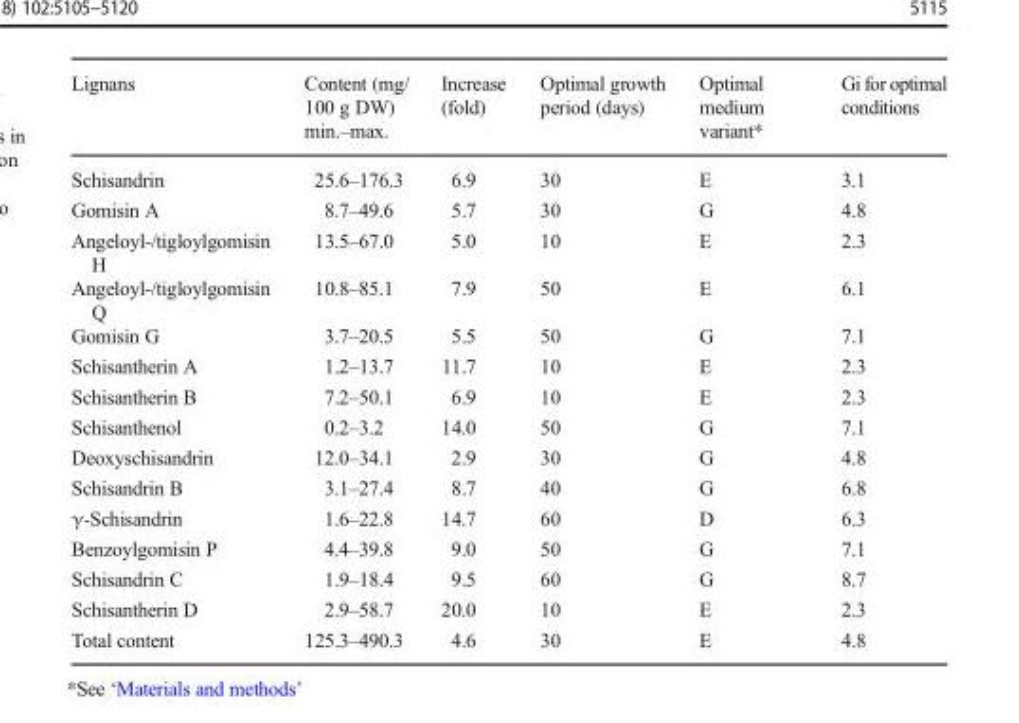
<table><thead><tr><td>Lignans</td><td>Content (mg/ 100 g DW) min.–max.</td><td>Increase (fold)</td><td>Optimal growth period (days)</td><td>Optimal medium variant*</td><td>Gi for optimal conditions</td></tr></thead><tbody><tr><td>Schisandrin</td><td>25.6–176.3</td><td>6.9</td><td>30</td><td>E</td><td>3.1</td></tr><tr><td>Gomisin A</td><td>8.7–49.6</td><td>5.7</td><td>30</td><td>G</td><td>4.8</td></tr><tr><td>Angeloyl-/tigloylgomisin H</td><td>13.5–67.0</td><td>5.0</td><td>10</td><td>E</td><td>2.3</td></tr><tr><td>Angeloyl-/tigloylgomisin Q</td><td>10.8–85.1</td><td>7.9</td><td>50</td><td>E</td><td>6.1</td></tr><tr><td>Gomisin G</td><td>3.7–20.5</td><td>5.5</td><td>50</td><td>G</td><td>7.1</td></tr><tr><td>Schisantherin A</td><td>1.2–13.7</td><td>11.7</td><td>10</td><td>E</td><td>2.3</td></tr><tr><td>Schisantherin B</td><td>7.2–50.1</td><td>6.9</td><td>10</td><td>E</td><td>2.3</td></tr><tr><td>Schisanthenol</td><td>0.2–3.2</td><td>14.0</td><td>50</td><td>G</td><td>7.1</td></tr><tr><td>Deoxyschisandrin</td><td>12.0–34.1</td><td>2.9</td><td>30</td><td>G</td><td>4.8</td></tr><tr><td>Schisandrin B</td><td>3.1–27.4</td><td>8.7</td><td>40</td><td>G</td><td>6.8</td></tr><tr><td>γ-Schisandrin</td><td>1.6–22.8</td><td>14.7</td><td>60</td><td>D</td><td>6.3</td></tr><tr><td>Benzoylgomisin P</td><td>4.4–39.8</td><td>9.0</td><td>50</td><td>G</td><td>7.1</td></tr><tr><td>Schisandrin C</td><td>1.9–18.4</td><td>9.5</td><td>60</td><td>G</td><td>8.7</td></tr><tr><td>Schisantherin D</td><td>2.9–58.7</td><td>20.0</td><td>10</td><td>E</td><td>2.3</td></tr><tr><td>Total content</td><td>125.3–490.3</td><td>4.6</td><td>30</td><td>E</td><td>4.8</td></tr></tbody></table>